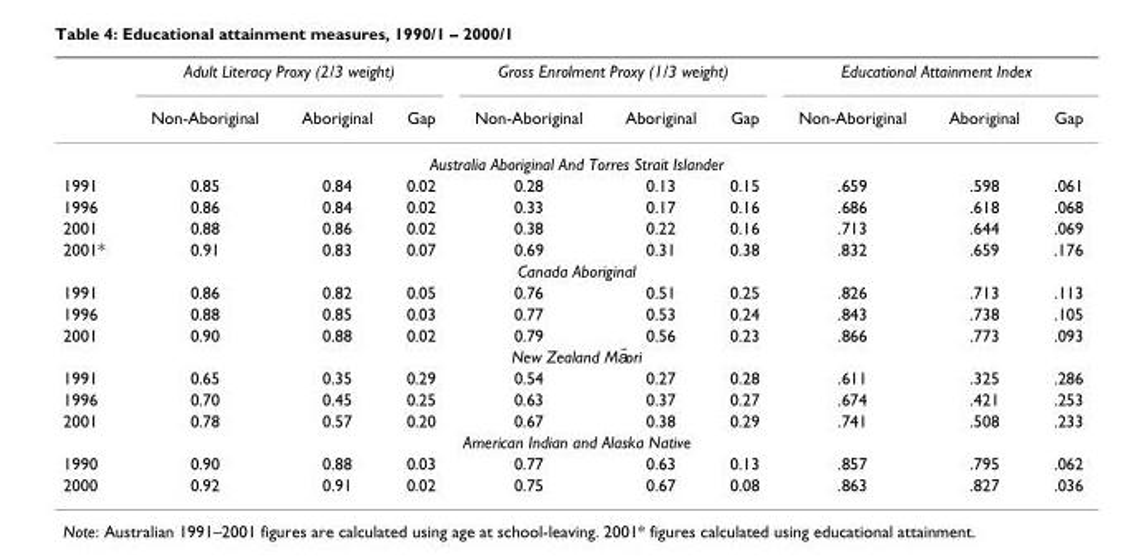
<table><thead><tr><td rowspan="2"></td><td colspan="3">Adult Literacy Proxy (2/3 weight)</td><td colspan="3">Gross Enrolment Proxy (1/3 weight)</td><td colspan="3">Educational Attainment Index</td></tr><tr><td>Non-Aboriginal</td><td>Aboriginal</td><td>Gap</td><td>Non-Aboriginal</td><td>Aboriginal</td><td>Gap</td><td>Non-Aboriginal</td><td>Aboriginal</td><td>Gap</td></tr></thead><tbody><tr><td colspan="10">Australia Aboriginal And Torres Strait Islander</td></tr><tr><td>1991</td><td>0.85</td><td>0.84</td><td>0.02</td><td>0.28</td><td>0.13</td><td>0.15</td><td>.659</td><td>.598</td><td>.061</td></tr><tr><td>1996</td><td>0.86</td><td>0.84</td><td>0.02</td><td>0.33</td><td>0.17</td><td>0.16</td><td>.686</td><td>.618</td><td>.068</td></tr><tr><td>2001</td><td>0.88</td><td>0.86</td><td>0.02</td><td>0.38</td><td>0.22</td><td>0.16</td><td>.713</td><td>.644</td><td>.069</td></tr><tr><td>2001*</td><td>0.91</td><td>0.83</td><td>0.07</td><td>0.69</td><td>0.31</td><td>0.38</td><td>.832</td><td>.659</td><td>.176</td></tr><tr><td colspan="10">Canada Aboriginal</td></tr><tr><td>1991</td><td>0.86</td><td>0.82</td><td>0.05</td><td>0.76</td><td>0.51</td><td>0.25</td><td>.826</td><td>.713</td><td>.113</td></tr><tr><td>1996</td><td>0.88</td><td>0.85</td><td>0.03</td><td>0.77</td><td>0.53</td><td>0.24</td><td>.843</td><td>.738</td><td>.105</td></tr><tr><td>2001</td><td>0.90</td><td>0.88</td><td>0.02</td><td>0.79</td><td>0.56</td><td>0.23</td><td>.866</td><td>.773</td><td>.093</td></tr><tr><td colspan="10">New Zealand Ma¯ori</td></tr><tr><td>1991</td><td>0.65</td><td>0.35</td><td>0.29</td><td>0.54</td><td>0.27</td><td>0.28</td><td>.611</td><td>.325</td><td>.286</td></tr><tr><td>1996</td><td>0.70</td><td>0.45</td><td>0.25</td><td>0.63</td><td>0.37</td><td>0.27</td><td>.674</td><td>.421</td><td>.253</td></tr><tr><td>2001</td><td>0.78</td><td>0.57</td><td>0.20</td><td>0.67</td><td>0.38</td><td>0.29</td><td>.741</td><td>.508</td><td>.233</td></tr><tr><td colspan="10">American Indian and Alaska Native</td></tr><tr><td>1990</td><td>0.90</td><td>0.88</td><td>0.03</td><td>0.77</td><td>0.63</td><td>0.13</td><td>.857</td><td>.795</td><td>.062</td></tr><tr><td>2000</td><td>0.92</td><td>0.91</td><td>0.02</td><td>0.75</td><td>0.67</td><td>0.08</td><td>.863</td><td>.827</td><td>.036</td></tr></tbody></table>